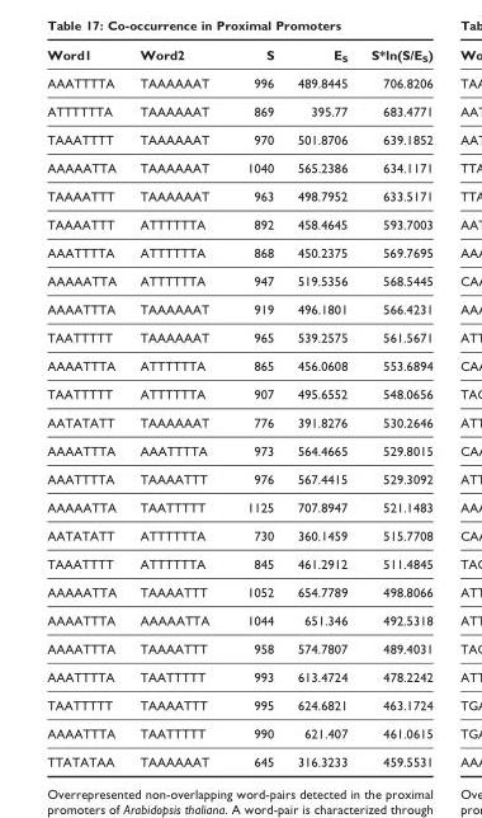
<table><thead><tr><td>Word1</td><td>Word2</td><td>S</td><td>E<sub>S</sub></td><td>S*ln(S/E<sub>S</sub>)</td></tr></thead><tbody><tr><td>AAATTTTA</td><td>TAAAAAAT</td><td>996</td><td>489.8445</td><td>706.8206</td></tr><tr><td>ATTTTTTA</td><td>TAAAAAAT</td><td>869</td><td>395.77</td><td>683.4771</td></tr><tr><td>TAAATTTT</td><td>TAAAAAAT</td><td>970</td><td>501.8706</td><td>639.1852</td></tr><tr><td>AAAAATTA</td><td>TAAAAAAT</td><td>1040</td><td>565.2386</td><td>634.1171</td></tr><tr><td>TAAAATTT</td><td>TAAAAAAT</td><td>963</td><td>498.7952</td><td>633.5171</td></tr><tr><td>TAAAATTT</td><td>ATTTTTTA</td><td>892</td><td>458.4645</td><td>593.7003</td></tr><tr><td>AAATTTTA</td><td>ATTTTTTA</td><td>868</td><td>450.2375</td><td>569.7695</td></tr><tr><td>AAAAATTA</td><td>ATTTTTTA</td><td>947</td><td>519.5356</td><td>568.5445</td></tr><tr><td>AAAATTTA</td><td>TAAAAAAT</td><td>919</td><td>496.1801</td><td>566.4231</td></tr><tr><td>TAATTTTT</td><td>TAAAAAAT</td><td>965</td><td>539.2575</td><td>561.5671</td></tr><tr><td>AAAATTTA</td><td>ATTTTTTA</td><td>865</td><td>456.0608</td><td>553.6894</td></tr><tr><td>TAATTTTT</td><td>ATTTTTTA</td><td>907</td><td>495.6552</td><td>548.0656</td></tr><tr><td>AATATATT</td><td>TAAAAAAT</td><td>776</td><td>391.8276</td><td>530.2646</td></tr><tr><td>AAAATTTA</td><td>AAATTTTA</td><td>973</td><td>564.4665</td><td>529.8015</td></tr><tr><td>AAATTTTA</td><td>TAAAATTT</td><td>976</td><td>567.4415</td><td>529.3092</td></tr><tr><td>AAAAATTA</td><td>TAATTTTT</td><td>1125</td><td>707.8947</td><td>521.1483</td></tr><tr><td>AATATATT</td><td>ATTTTTTA</td><td>730</td><td>360.1459</td><td>515.7708</td></tr><tr><td>TAAATTTT</td><td>ATTTTTTA</td><td>845</td><td>461.2912</td><td>511.4845</td></tr><tr><td>AAAAATTA</td><td>TAAAATTT</td><td>1052</td><td>654.7789</td><td>498.8066</td></tr><tr><td>AAAATTTA</td><td>AAAAATTA</td><td>1044</td><td>651.346</td><td>492.5318</td></tr><tr><td>AAAATTTA</td><td>TAAAATTT</td><td>958</td><td>574.7807</td><td>489.4031</td></tr><tr><td>AAATTTTA</td><td>TAATTTTT</td><td>993</td><td>613.4724</td><td>478.2242</td></tr><tr><td>TAATTTTT</td><td>TAAAATTT</td><td>995</td><td>624.6821</td><td>463.1724</td></tr><tr><td>AAAATTTA</td><td>TAATTTTT</td><td>990</td><td>621.407</td><td>461.0615</td></tr><tr><td>TTATATAA</td><td>TAAAAAAT</td><td>645</td><td>316.3233</td><td>459.5531</td></tr></tbody></table>